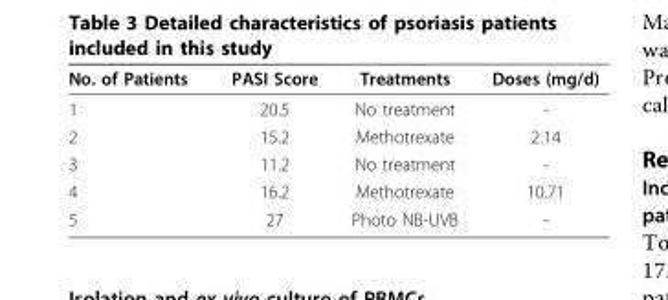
<table><thead><tr><td>No. of Patients</td><td>PASI Score</td><td>Treatments</td><td>Doses (mg/d)</td></tr></thead><tbody><tr><td>1</td><td>20.5</td><td>No treatment</td><td>-</td></tr><tr><td>2</td><td>15.2</td><td>Methotrexate</td><td>2.14</td></tr><tr><td>3</td><td>11.2</td><td>No treatment</td><td>-</td></tr><tr><td>4</td><td>16.2</td><td>Methotrexate</td><td>10.71</td></tr><tr><td>5</td><td>27</td><td>Photo NB-UVB</td><td>-</td></tr></tbody></table>